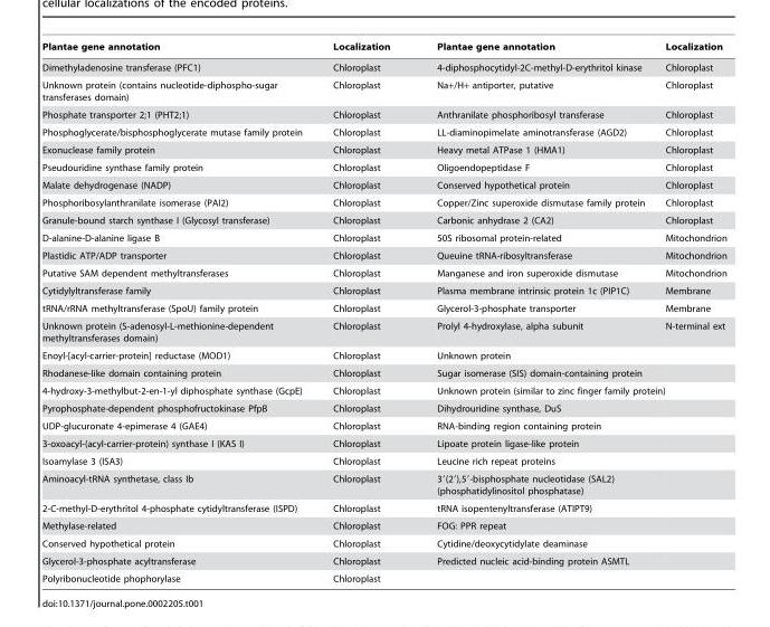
<table><thead><tr><td>Plantae gene annotation</td><td>Localization</td><td>Plantae gene annotation</td><td>Localization</td></tr></thead><tbody><tr><td>Dimethyladenosine transferase (PFC1)</td><td>Chloroplast</td><td>4-diphosphocytidyl-2C-methyl-D-erythritol kinase</td><td>Chloroplast</td></tr><tr><td>Unknown protein (contains nucleotide-diphospho-sugar transferases domain)</td><td>Chloroplast</td><td>Na+/H+ antiporter, putative</td><td>Chloroplast</td></tr><tr><td>Phosphate transporter 2;1 (PHT2;1)</td><td>Chloroplast</td><td>Anthranilate phosphoribosyl transferase</td><td>Chloroplast</td></tr><tr><td>Phosphoglycerate/bisphosphoglycerate mutase family protein</td><td>Chloroplast</td><td>LL-diaminopimelate aminotransferase (AGD2)</td><td>Chloroplast</td></tr><tr><td>Exonuclease family protein</td><td>Chloroplast</td><td>Heavy metal ATPase 1 (HMA1)</td><td>Chloroplast</td></tr><tr><td>Pseudouridine synthase family protein</td><td>Chloroplast</td><td>Oligoendopeptidase F</td><td>Chloroplast</td></tr><tr><td>Malate dehydrogenase (NADP)</td><td>Chloroplast</td><td>Conserved hypothetical protein</td><td>Chloroplast</td></tr><tr><td>Phosphoribosylanthranilate isomerase (PAI2)</td><td>Chloroplast</td><td>Copper/Zinc superoxide dismutase family protein</td><td>Chloroplast</td></tr><tr><td>Granule-bound starch synthase I (Glycosyl transferase)</td><td>Chloroplast</td><td>Carbonic anhydrase 2 (CA2)</td><td>Chloroplast</td></tr><tr><td>D-alanine-D-alanine ligase B</td><td>Chloroplast</td><td>50S ribosomal protein-related</td><td>Mitochondrion</td></tr><tr><td>Plastidic ATP/ADP transporter</td><td>Chloroplast</td><td>Queuine tRNA-ribosyltransferase</td><td>Mitochondrion</td></tr><tr><td>Putative SAM dependent methyltransferases</td><td>Chloroplast</td><td>Manganese and iron superoxide dismutase</td><td>Mitochondrion</td></tr><tr><td>Cytidylyltransferase family</td><td>Chloroplast</td><td>Plasma membrane intrinsic protein 1c (PIP1C)</td><td>Membrane</td></tr><tr><td>tRNA/rRNA methyltransferase (SpoU) family protein</td><td>Chloroplast</td><td>Glycerol-3-phosphate transporter</td><td>Membrane</td></tr><tr><td>Unknown protein (S-adenosyl-L-methionine-dependent methyltransferases domain)</td><td>Chloroplast</td><td>Prolyl 4-hydroxylase, alpha subunit</td><td>N-terminal ext</td></tr><tr><td>Enoyl-[acyl-carrier-protein] reductase (MOD1)</td><td>Chloroplast</td><td>Unknown protein</td><td></td></tr><tr><td>Rhodanese-like domain containing protein</td><td>Chloroplast</td><td>Sugar isomerase (SIS) domain-containing protein</td><td></td></tr><tr><td>4-hydroxy-3-methylbut-2-en-1-yl diphosphate synthase (GcpE)</td><td>Chloroplast</td><td>Unknown protein (similar to zinc finger family protein)</td><td></td></tr><tr><td>Pyrophosphate-dependent phosphofructokinase PfpB</td><td>Chloroplast</td><td>Dihydrouridine synthase, DuS</td><td></td></tr><tr><td>UDP-glucuronate 4-epimerase 4 (GAE4)</td><td>Chloroplast</td><td>RNA-binding region containing protein</td><td></td></tr><tr><td>3-oxoacyl-(acyl-carrier-protein) synthase I (KAS I)</td><td>Chloroplast</td><td>Lipoate protein ligase-like protein</td><td></td></tr><tr><td>Isoamylase 3 (ISA3)</td><td>Chloroplast</td><td>Leucine rich repeat proteins</td><td></td></tr><tr><td>Aminoacyl-tRNA synthetase, class Ib</td><td>Chloroplast</td><td>3′(2′),5′-bisphosphate nucleotidase (SAL2) (phosphatidylinositol phosphatase)</td><td></td></tr><tr><td>2-C-methyl-D-erythritol 4-phosphate cytidyltransferase (ISPD)</td><td>Chloroplast</td><td>tRNA isopentenyltransferase (ATIPT9)</td><td></td></tr><tr><td>Methylase-related</td><td>Chloroplast</td><td>FOG: PPR repeat</td><td></td></tr><tr><td>Conserved hypothetical protein</td><td>Chloroplast</td><td>Cytidine/deoxycytidylate deaminase</td><td></td></tr><tr><td>Glycerol-3-phosphate acyltransferase</td><td>Chloroplast</td><td>Predicted nucleic acid-binding protein ASMTL</td><td></td></tr><tr><td>Polyribonucleotide phophorylase</td><td>Chloroplast</td><td></td><td></td></tr></tbody></table>